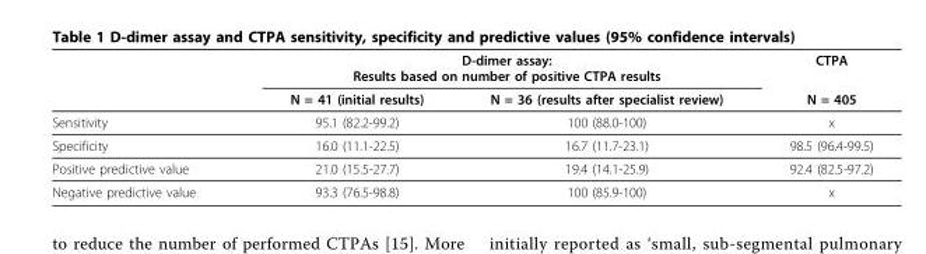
<table><thead><tr><td rowspan="2"></td><td colspan="2">D-dimer assay: Results based on number of positive CTPA results</td><td rowspan="2">CTPA N = 405</td></tr><tr><td>N = 41 (initial results)</td><td>N = 36 (results after specialist review)</td></tr></thead><tbody><tr><td>Sensitivity</td><td>95.1 (82.2-99.2)</td><td>100 (88.0-100)</td><td>x</td></tr><tr><td>Specificity</td><td>16.0 (11.1-22.5)</td><td>16.7 (11.7-23.1)</td><td>98.5 (96.4-99.5)</td></tr><tr><td>Positive predictive value</td><td>21.0 (15.5-27.7)</td><td>19.4 (14.1-25.9)</td><td>92.4 (82.5-97.2)</td></tr><tr><td>Negative predictive value</td><td>93.3 (76.5-98.8)</td><td>100 (85.9-100)</td><td>x</td></tr></tbody></table>